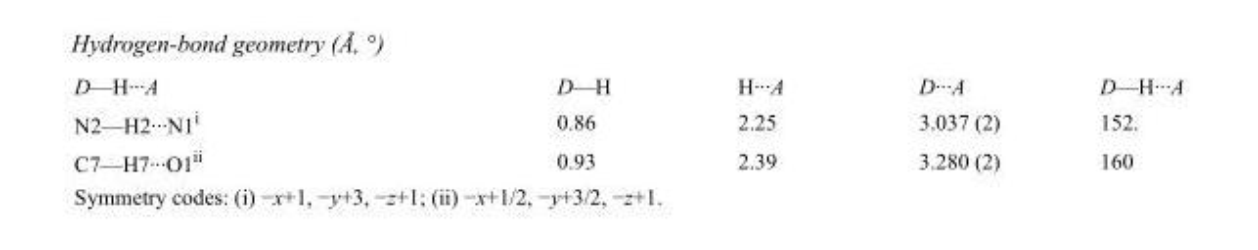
<table><tbody><tr><td>D—H···A</td><td>D—H</td><td>H···A</td><td>D···A</td><td>D—H···A</td></tr><tr><td>N2—H2···N1<sup>i</sup></td><td>0.86</td><td>2.25</td><td>3.037 (2)</td><td>152.</td></tr><tr><td>C7—H7···O1<sup>ii</sup></td><td>0.93</td><td>2.39</td><td>3.280 (2)</td><td>160</td></tr></tbody></table>